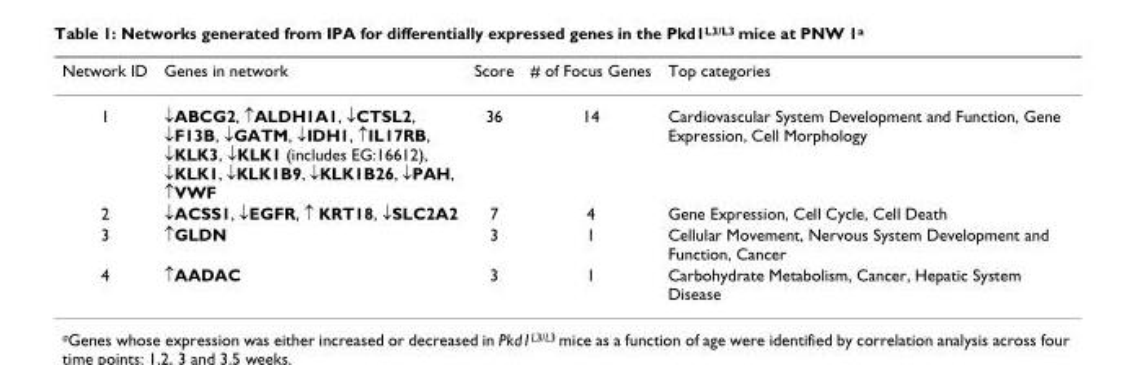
<table><thead><tr><td>Network ID</td><td>Genes in network</td><td>Score</td><td># of Focus Genes</td><td>Top categories</td></tr></thead><tbody><tr><td>1</td><td>↓ABCG2, ↑ALDH1A1, ↓CTSL2, ↓F13B, ↓GATM, ↓IDH1, ↑IL17RB, ↓KLK3, ↓KLK1 (includes EG:16612), ↓KLK1, ↓KLK1B9, ↓KLK1B26, ↓PAH, ↑VWF</td><td>36</td><td>14</td><td>Cardiovascular System Development and Function, Gene Expression, Cell Morphology</td></tr><tr><td>2</td><td>↓ACSS1, ↓EGFR, ↑ KRT18, ↓SLC2A2</td><td>7</td><td>4</td><td>Gene Expression, Cell Cycle, Cell Death</td></tr><tr><td>3</td><td>↑GLDN</td><td>3</td><td>1</td><td>Cellular Movement, Nervous System Development and Function, Cancer</td></tr><tr><td>4</td><td>↑AADAC</td><td>3</td><td>1</td><td>Carbohydrate Metabolism, Cancer, Hepatic System Disease</td></tr></tbody></table>